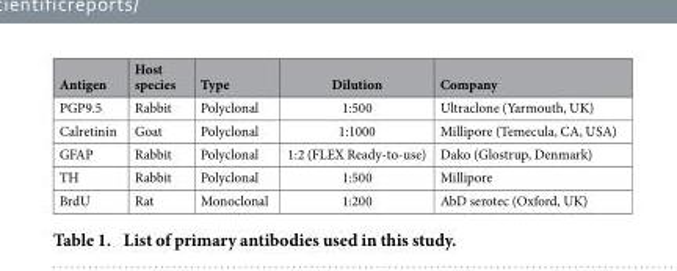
<table><thead><tr><td>Antigen</td><td>Host species</td><td>Type</td><td>Dilution</td><td>Company</td></tr></thead><tbody><tr><td>PGP9.5</td><td>Rabbit</td><td>Polyclonal</td><td>1:500</td><td>Ultraclone (Yarmouth, UK)</td></tr><tr><td>Calretinin</td><td>Goat</td><td>Polyclonal</td><td>1:1000</td><td>Millipore (Temecula, CA, USA)</td></tr><tr><td>GFAP</td><td>Rabbit</td><td>Polyclonal</td><td>1:2 (FLEX Ready-to-use)</td><td>Dako (Glostrup, Denmark)</td></tr><tr><td>TH</td><td>Rabbit</td><td>Polyclonal</td><td>1:500</td><td>Millipore</td></tr><tr><td>BrdU</td><td>Rat</td><td>Monoclonal</td><td>1:200</td><td>AbD serotec (Oxford, UK)</td></tr></tbody></table>